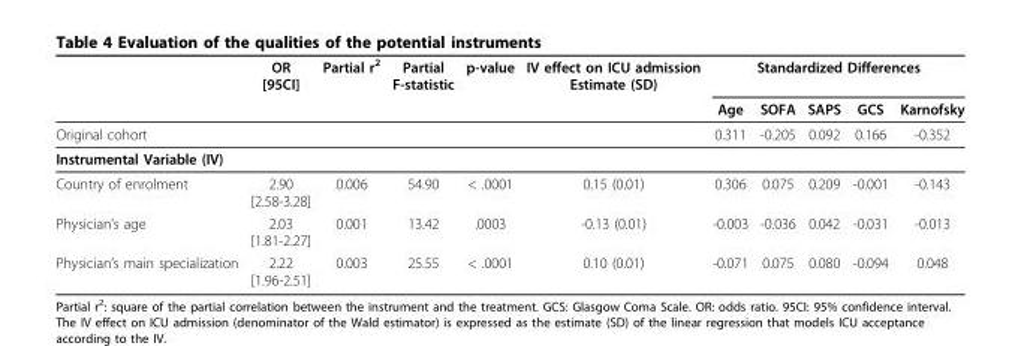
<table><thead><tr><td rowspan="2"></td><td rowspan="2">OR [95CI]</td><td rowspan="2">Partial r<sup>2</sup></td><td rowspan="2">Partial F-statistic</td><td rowspan="2">p-value</td><td rowspan="2">IV effect on ICU admission Estimate (SD)</td><td colspan="5">Standardized Differences</td></tr><tr><td>Age</td><td>SOFA</td><td>SAPS</td><td>GCS</td><td>Karnofsky</td></tr></thead><tbody><tr><td>Original cohort</td><td></td><td></td><td></td><td></td><td></td><td>0.311</td><td>-0.205</td><td>0.092</td><td>0.166</td><td>-0.352</td></tr><tr><td colspan="11">Instrumental Variable (IV)</td></tr><tr><td>Country of enrolment</td><td>2.90 [2.58-3.28]</td><td>0.006</td><td>54.90</td><td>&lt; .0001</td><td>0.15 (0.01)</td><td>0.306</td><td>0.075</td><td>0.209</td><td>-0.001</td><td>-0.143</td></tr><tr><td>Physician’s age</td><td>2.03 [1.81-2.27]</td><td>0.001</td><td>13.42</td><td>.0003</td><td>-0.13 (0.01)</td><td>-0.003</td><td>-0.036</td><td>0.042</td><td>-0.031</td><td>-0.013</td></tr><tr><td>Physician’s main specialization</td><td>2.22 [1.96-2.51]</td><td>0.003</td><td>25.55</td><td>&lt; .0001</td><td>0.10 (0.01)</td><td>-0.071</td><td>0.075</td><td>0.080</td><td>-0.094</td><td>0.048</td></tr></tbody></table>